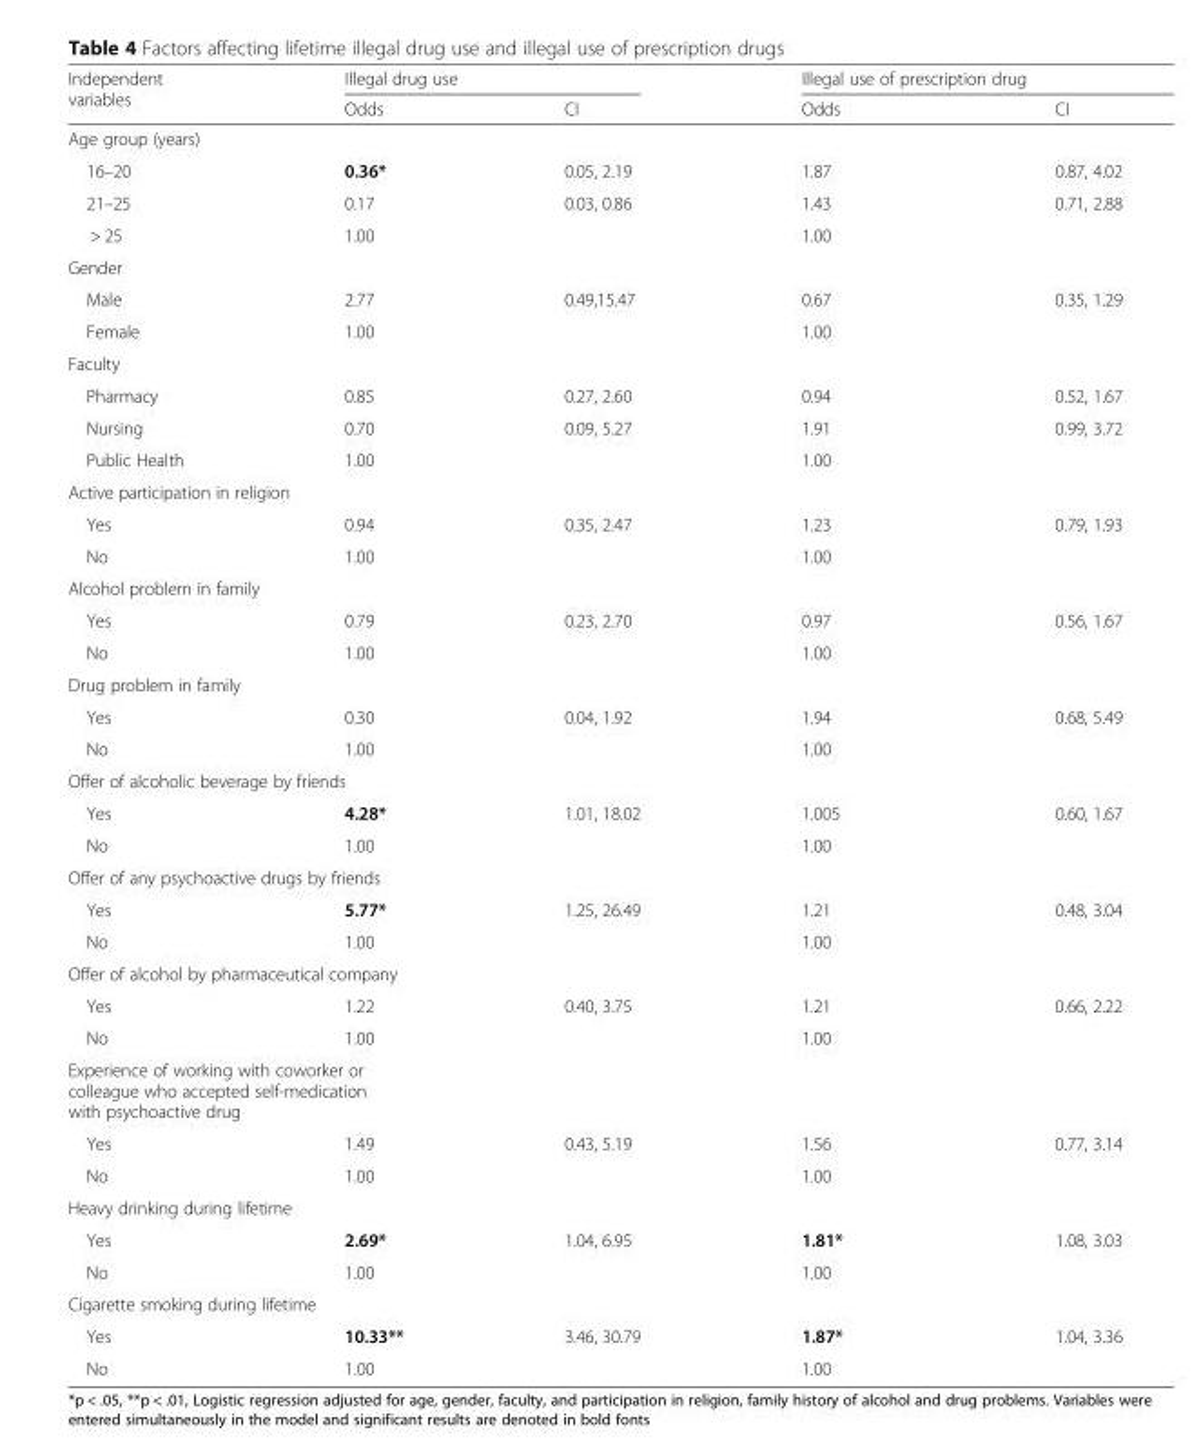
<table><thead><tr><td rowspan="2">Independent variables</td><td colspan="2">Illegal drug use</td><td colspan="2">Illegal use of prescription drug</td></tr><tr><td>Odds</td><td>CI</td><td>Odds</td><td>CI</td></tr></thead><tbody><tr><td colspan="5">Age group (years)</td></tr><tr><td>16–20</td><td>0.36*</td><td>0.05, 2.19</td><td>1.87</td><td>0.87, 4.02</td></tr><tr><td>21–25</td><td>0.17</td><td>0.03, 0.86</td><td>1.43</td><td>0.71, 2.88</td></tr><tr><td>&gt; 25</td><td>1.00</td><td></td><td>1.00</td><td></td></tr><tr><td colspan="5">Gender</td></tr><tr><td>Male</td><td>2.77</td><td>0.49,15.47</td><td>0.67</td><td>0.35, 1.29</td></tr><tr><td>Female</td><td>1.00</td><td></td><td>1.00</td><td></td></tr><tr><td colspan="5">Faculty</td></tr><tr><td>Pharmacy</td><td>0.85</td><td>0.27, 2.60</td><td>0.94</td><td>0.52, 1.67</td></tr><tr><td>Nursing</td><td>0.70</td><td>0.09, 5.27</td><td>1.91</td><td>0.99, 3.72</td></tr><tr><td>Public Health</td><td>1.00</td><td></td><td>1.00</td><td></td></tr><tr><td colspan="5">Active participation in religion</td></tr><tr><td>Yes</td><td>0.94</td><td>0.35, 2.47</td><td>1.23</td><td>0.79, 1.93</td></tr><tr><td>No</td><td>1.00</td><td></td><td>1.00</td><td></td></tr><tr><td colspan="5">Alcohol problem in family</td></tr><tr><td>Yes</td><td>0.79</td><td>0.23, 2.70</td><td>0.97</td><td>0.56, 1.67</td></tr><tr><td>No</td><td>1.00</td><td></td><td>1.00</td><td></td></tr><tr><td colspan="5">Drug problem in family</td></tr><tr><td>Yes</td><td>0.30</td><td>0.04, 1.92</td><td>1.94</td><td>0.68, 5.49</td></tr><tr><td>No</td><td>1.00</td><td></td><td>1.00</td><td></td></tr><tr><td colspan="5">Offer of alcoholic beverage by friends</td></tr><tr><td>Yes</td><td>4.28*</td><td>1.01, 18.02</td><td>1.005</td><td>0.60, 1.67</td></tr><tr><td>No</td><td>1.00</td><td></td><td>1.00</td><td></td></tr><tr><td colspan="5">Offer of any psychoactive drugs by friends</td></tr><tr><td>Yes</td><td>5.77*</td><td>1.25, 26.49</td><td>1.21</td><td>0.48, 3.04</td></tr><tr><td>No</td><td>1.00</td><td></td><td>1.00</td><td></td></tr><tr><td colspan="5">Offer of alcohol by pharmaceutical company</td></tr><tr><td>Yes</td><td>1.22</td><td>0.40, 3.75</td><td>1.21</td><td>0.66, 2.22</td></tr><tr><td>No</td><td>1.00</td><td></td><td>1.00</td><td></td></tr><tr><td colspan="5">Experience of working with coworker or colleague who accepted self-medication with psychoactive drug</td></tr><tr><td>Yes</td><td>1.49</td><td>0.43, 5.19</td><td>1.56</td><td>0.77, 3.14</td></tr><tr><td>No</td><td>1.00</td><td></td><td>1.00</td><td></td></tr><tr><td colspan="5">Heavy drinking during lifetime</td></tr><tr><td>Yes</td><td>2.69*</td><td>1.04, 6.95</td><td>1.81*</td><td>1.08, 3.03</td></tr><tr><td>No</td><td>1.00</td><td></td><td>1.00</td><td></td></tr><tr><td colspan="5">Cigarette smoking during lifetime</td></tr><tr><td>Yes</td><td>10.33**</td><td>3.46, 30.79</td><td>1.87*</td><td>1.04, 3.36</td></tr><tr><td>No</td><td>1.00</td><td></td><td>1.00</td><td></td></tr></tbody></table>